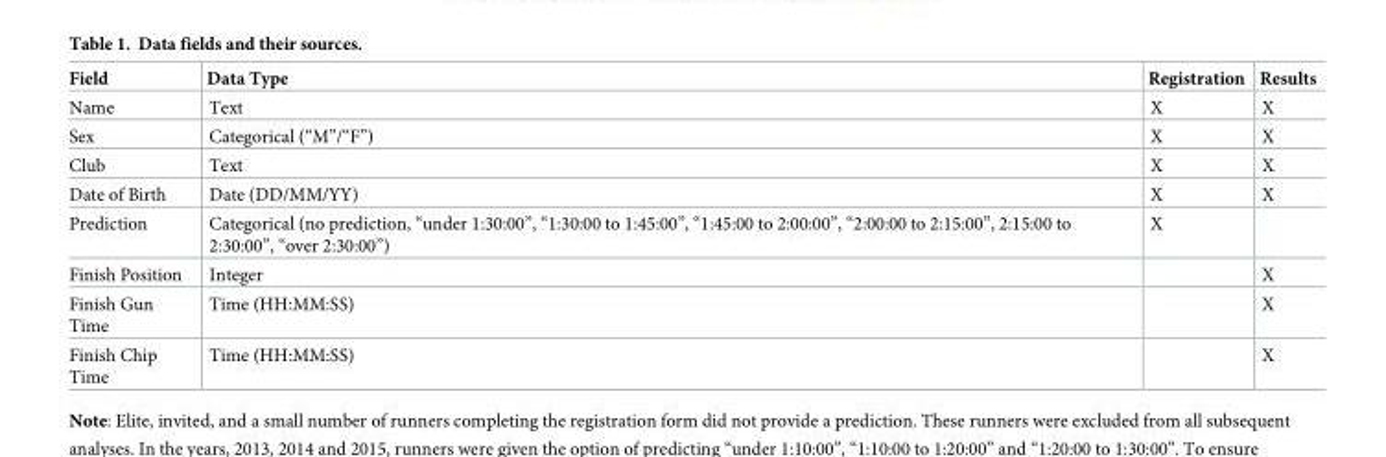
<table><thead><tr><td>Field</td><td>Data Type</td><td>Registration</td><td>Results</td></tr></thead><tbody><tr><td>Name</td><td>Text</td><td>X</td><td>X</td></tr><tr><td>Sex</td><td>Categorical (“M”/“F”)</td><td>X</td><td>X</td></tr><tr><td>Club</td><td>Text</td><td>X</td><td>X</td></tr><tr><td>Date of Birth</td><td>Date (DD/MM/YY)</td><td>X</td><td>X</td></tr><tr><td>Prediction</td><td>Categorical (no prediction, “under 1:30:00”, “1:30:00 to 1:45:00”, “1:45:00 to 2:00:00”, “2:00:00 to 2:15:00”, 2:15:00 to 2:30:00”, “over 2:30:00”)</td><td>X</td><td></td></tr><tr><td>Finish Position</td><td>Integer</td><td></td><td>X</td></tr><tr><td>Finish Gun Time</td><td>Time (HH:MM:SS)</td><td></td><td>X</td></tr><tr><td>Finish Chip Time</td><td>Time (HH:MM:SS)</td><td></td><td>X</td></tr></tbody></table>